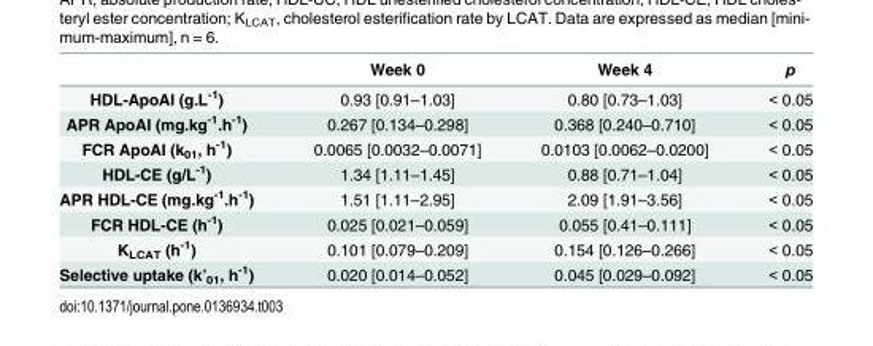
<table><thead><tr><td></td><td>Week 0</td><td>Week 4</td><td>p</td></tr></thead><tbody><tr><td>HDL-ApoAI (g.L<sup>-1</sup>)</td><td>0.93 [0.91–1.03]</td><td>0.80 [0.73–1.03]</td><td>&lt; 0.05</td></tr><tr><td>APR ApoAI (mg.kg<sup>-1</sup>.h<sup>-1</sup>)</td><td>0.267 [0.134–0.298]</td><td>0.368 [0.240–0.710]</td><td>&lt; 0.05</td></tr><tr><td>FCR ApoAI (k<sub>01</sub>, h<sup>-1</sup>)</td><td>0.0065 [0.0032–0.0071]</td><td>0.0103 [0.0062–0.0200]</td><td>&lt; 0.05</td></tr><tr><td>HDL-CE (g/L<sup>-1</sup>)</td><td>1.34 [1.11–1.45]</td><td>0.88 [0.71–1.04]</td><td>&lt; 0.05</td></tr><tr><td>APR HDL-CE (mg.kg<sup>-1</sup>.h<sup>-1</sup>)</td><td>1.51 [1.11–2.95]</td><td>2.09 [1.91–3.56]</td><td>&lt; 0.05</td></tr><tr><td>FCR HDL-CE (h<sup>-1</sup>)</td><td>0.025 [0.021–0.059]</td><td>0.055 [0.41–0.111]</td><td>&lt; 0.05</td></tr><tr><td>K<sub>LCAT</sub> (h<sup>-1</sup>)</td><td>0.101 [0.079–0.209]</td><td>0.154 [0.126–0.266]</td><td>&lt; 0.05</td></tr><tr><td>Selective uptake (k’<sub>01</sub>, h<sup>-1</sup>)</td><td>0.020 [0.014–0.052]</td><td>0.045 [0.029–0.092]</td><td>&lt; 0.05</td></tr></tbody></table>